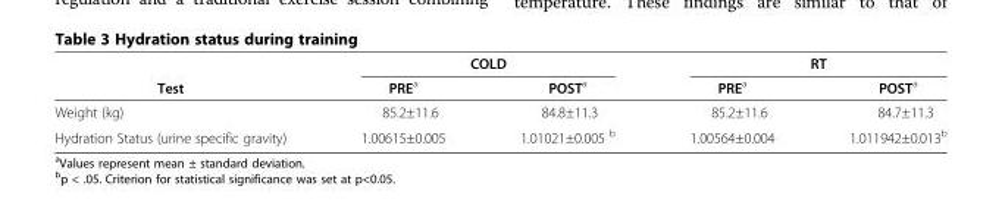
<table><thead><tr><td rowspan="2">Test</td><td colspan="2">COLD</td><td colspan="2">RT</td></tr><tr><td>PRE<sup>a</sup></td><td>POST<sup>a</sup></td><td>PRE<sup>a</sup></td><td>POST<sup>a</sup></td></tr></thead><tbody><tr><td>Weight (kg)</td><td>85.2±11.6</td><td>84.8±11.3</td><td>85.2±11.6</td><td>84.7±11.3</td></tr><tr><td>Hydration Status (urine specific gravity)</td><td>1.00615±0.005</td><td>1.01021±0.005 <sup>b</sup></td><td>1.00564±0.004</td><td>1.011942±0.013<sup>b</sup></td></tr></tbody></table>